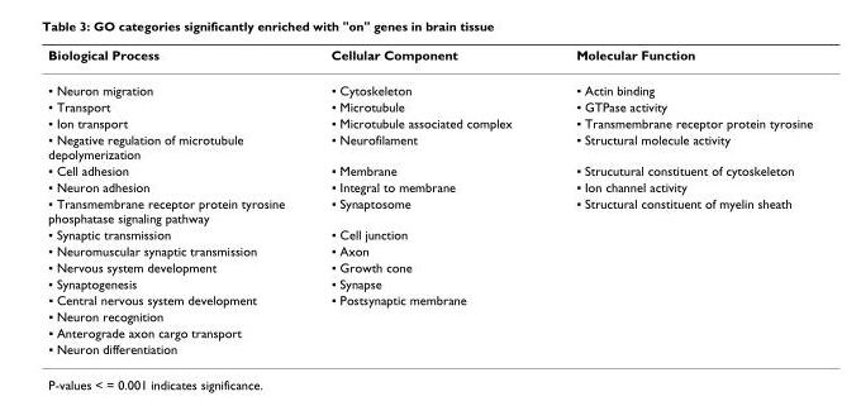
<table><thead><tr><td>Biological Process</td><td>Cellular Component</td><td>Molecular Function</td></tr></thead><tbody><tr><td>▪ Neuron migration</td><td>▪ Cytoskeleton</td><td>▪ Actin binding</td></tr><tr><td>▪ Transport</td><td>▪ Microtubule</td><td>▪ GTPase activity</td></tr><tr><td>▪ Ion transport</td><td>▪ Microtubule associated complex</td><td>▪ Transmembrane receptor protein tyrosine</td></tr><tr><td>▪ Negative regulation of microtubule depolymerization</td><td>▪ Neurofilament</td><td>▪ Structural molecule activity</td></tr><tr><td>▪ Cell adhesion</td><td>▪ Membrane</td><td>▪ Strucutural constituent of cytoskeleton</td></tr><tr><td>▪ Neuron adhesion</td><td>▪ Integral to membrane</td><td>▪ Ion channel activity</td></tr><tr><td>▪ Transmembrane receptor protein tyrosine phosphatase signaling pathway</td><td>▪ Synaptosome</td><td>▪ Structural constituent of myelin sheath</td></tr><tr><td>▪ Synaptic transmission</td><td>▪ Cell junction</td><td></td></tr><tr><td>▪ Neuromuscular synaptic transmission</td><td>▪ Axon</td><td></td></tr><tr><td>▪ Nervous system development</td><td>▪ Growth cone</td><td></td></tr><tr><td>▪ Synaptogenesis</td><td>▪ Synapse</td><td></td></tr><tr><td>▪ Central nervous system development</td><td>▪ Postsynaptic membrane</td><td></td></tr><tr><td colspan="3">▪ Neuron recognition</td></tr><tr><td colspan="3">▪ Anterograde axon cargo transport</td></tr><tr><td>▪ Neuron differentiation</td><td></td><td></td></tr></tbody></table>